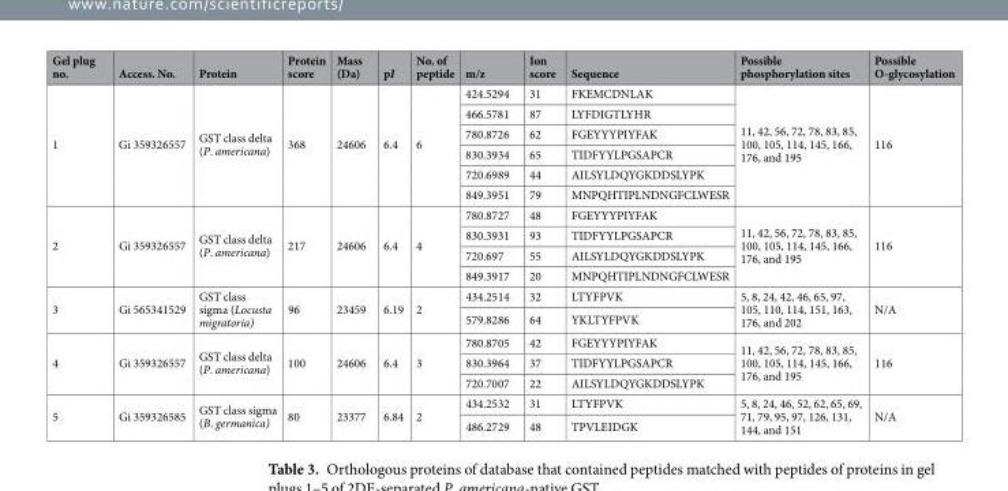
<table><thead><tr><td>Gel plug no.</td><td>Access. No.</td><td>Protein</td><td>Protein score</td><td>Mass (Da)</td><td>pI</td><td>No. of peptide</td><td>m/z</td><td>Ion score</td><td>Sequence</td><td>Possible phosphorylation sites</td><td>Possible O-glycosylation</td></tr></thead><tbody><tr><td rowspan="6">1</td><td rowspan="6">Gi 359326557</td><td rowspan="6">GST class delta (P. americana)</td><td rowspan="6">368</td><td rowspan="6">24606</td><td rowspan="6">6.4</td><td rowspan="6">6</td><td>424.5294</td><td>31</td><td>FKEMCDNLAK</td><td rowspan="6">11, 42, 56, 72, 78, 83, 85, 100, 105, 114, 145, 166, 176, and 195</td><td rowspan="6">116</td></tr><tr><td>466.5781</td><td>87</td><td>LYFDIGTLYHR</td></tr><tr><td>780.8726</td><td>62</td><td>FGEYYYPIYFAK</td></tr><tr><td>830.3934</td><td>65</td><td>TIDFYYLPGSAPCR</td></tr><tr><td>720.6989</td><td>44</td><td>AILSYLDQYGKDDSLYPK</td></tr><tr><td>849.3951</td><td>79</td><td>MNPQHTIPLNDNGFCLWESR</td></tr><tr><td rowspan="4">2</td><td rowspan="4">Gi 359326557</td><td rowspan="4">GST class delta (P. americana)</td><td rowspan="4">217</td><td rowspan="4">24606</td><td rowspan="4">6.4</td><td rowspan="4">4</td><td>780.8727</td><td>48</td><td>FGEYYYPIYFAK</td><td rowspan="4">11, 42, 56, 72, 78, 83, 85, 100, 105, 114, 145, 166, 176, and 195</td><td rowspan="4">116</td></tr><tr><td>830.3931</td><td>93</td><td>TIDFYYLPGSAPCR</td></tr><tr><td>720.697</td><td>55</td><td>AILSYLDQYGKDDSLYPK</td></tr><tr><td>849.3917</td><td>20</td><td>MNPQHTIPLNDNGFCLWESR</td></tr><tr><td rowspan="2">3</td><td rowspan="2">Gi 565341529</td><td rowspan="2">GST class sigma (Locusta migratoria)</td><td rowspan="2">96</td><td rowspan="2">23459</td><td rowspan="2">6.19</td><td rowspan="2">2</td><td>434.2514</td><td>32</td><td>LTYFPVK</td><td rowspan="2">5, 8, 24, 42, 46, 65, 97, 105, 110, 114, 151, 163, 176, and 202</td><td rowspan="2">N/A</td></tr><tr><td>579.8286</td><td>64</td><td>YKLTYFPVK</td></tr><tr><td rowspan="3">4</td><td rowspan="3">Gi 359326557</td><td rowspan="3">GST class delta (P. americana)</td><td rowspan="3">100</td><td rowspan="3">24606</td><td rowspan="3">6.4</td><td rowspan="3">3</td><td>780.8705</td><td>42</td><td>FGEYYYPIYFAK</td><td rowspan="3">11, 42, 56, 72, 78, 83, 85, 100, 105, 114, 145, 166, 176, and 195</td><td rowspan="3">116</td></tr><tr><td>830.3964</td><td>37</td><td>TIDFYYLPGSAPCR</td></tr><tr><td>720.7007</td><td>22</td><td>AILSYLDQYGKDDSLYPK</td></tr><tr><td rowspan="2">5</td><td rowspan="2">Gi 359326585</td><td rowspan="2">GST class sigma (B. germanica)</td><td rowspan="2">80</td><td rowspan="2">23377</td><td rowspan="2">6.84</td><td rowspan="2">2</td><td>434.2532</td><td>31</td><td>LTYFPVK</td><td rowspan="2">5, 8, 24, 46, 52, 62, 65, 69, 71, 79, 95, 97, 126, 131, 144, and 151</td><td rowspan="2">N/A</td></tr><tr><td>486.2729</td><td>48</td><td>TPVLEIDGK</td></tr></tbody></table>